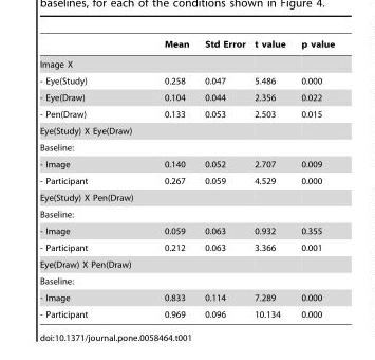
<table><thead><tr><td></td><td>Mean</td><td>Std Error</td><td>t value</td><td>p value</td></tr></thead><tbody><tr><td colspan="5">Image X</td></tr><tr><td>- Eye(Study)</td><td>0.258</td><td>0.047</td><td>5.486</td><td>0.000</td></tr><tr><td>- Eye(Draw)</td><td>0.104</td><td>0.044</td><td>2.356</td><td>0.022</td></tr><tr><td>- Pen(Draw)</td><td>0.133</td><td>0.053</td><td>2.503</td><td>0.015</td></tr><tr><td colspan="5">Eye(Study) X Eye(Draw)</td></tr><tr><td colspan="5">Baseline:</td></tr><tr><td>- Image</td><td>0.140</td><td>0.052</td><td>2.707</td><td>0.009</td></tr><tr><td>- Participant</td><td>0.267</td><td>0.059</td><td>4.529</td><td>0.000</td></tr><tr><td colspan="5">Eye(Study) X Pen(Draw)</td></tr><tr><td colspan="5">Baseline:</td></tr><tr><td>- Image</td><td>0.059</td><td>0.063</td><td>0.932</td><td>0.355</td></tr><tr><td>- Participant</td><td>0.212</td><td>0.063</td><td>3.366</td><td>0.001</td></tr><tr><td colspan="5">Eye(Draw) X Pen(Draw)</td></tr><tr><td colspan="5">Baseline:</td></tr><tr><td>- Image</td><td>0.833</td><td>0.114</td><td>7.289</td><td>0.000</td></tr><tr><td>- Participant</td><td>0.969</td><td>0.096</td><td>10.134</td><td>0.000</td></tr></tbody></table>